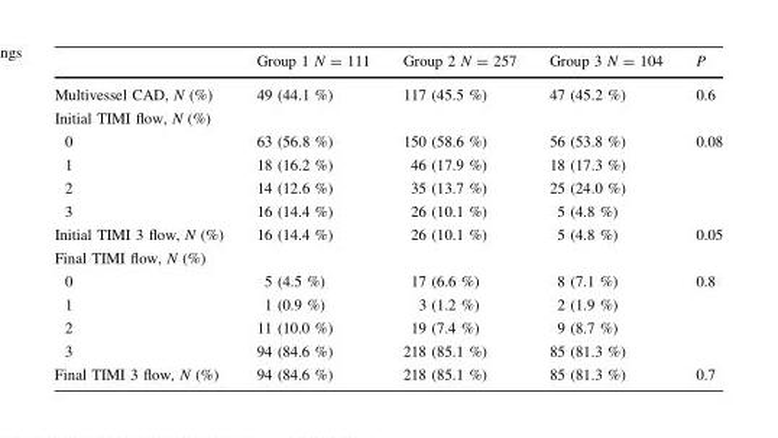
<table><thead><tr><td></td><td>Group 1 N = 111</td><td>Group 2 N = 257</td><td>Group 3 N = 104</td><td>P</td></tr></thead><tbody><tr><td>Multivessel CAD, N (%)</td><td>49 (44.1 %)</td><td>117 (45.5 %)</td><td>47 (45.2 %)</td><td>0.6</td></tr><tr><td colspan="5">Initial TIMI flow, N (%)</td></tr><tr><td>0</td><td>63 (56.8 %)</td><td>150 (58.6 %)</td><td>56 (53.8 %)</td><td rowspan="4">0.08</td></tr><tr><td>1</td><td>18 (16.2 %)</td><td>46 (17.9 %)</td><td>18 (17.3 %)</td></tr><tr><td>2</td><td>14 (12.6 %)</td><td>35 (13.7 %)</td><td>25 (24.0 %)</td></tr><tr><td>3</td><td>16 (14.4 %)</td><td>26 (10.1 %)</td><td>5 (4.8 %)</td></tr><tr><td>Initial TIMI 3 flow, N (%)</td><td>16 (14.4 %)</td><td>26 (10.1 %)</td><td>5 (4.8 %)</td><td>0.05</td></tr><tr><td colspan="5">Final TIMI flow, N (%)</td></tr><tr><td>0</td><td>5 (4.5 %)</td><td>17 (6.6 %)</td><td>8 (7.1 %)</td><td rowspan="4">0.8</td></tr><tr><td>1</td><td>1 (0.9 %)</td><td>3 (1.2 %)</td><td>2 (1.9 %)</td></tr><tr><td>2</td><td>11 (10.0 %)</td><td>19 (7.4 %)</td><td>9 (8.7 %)</td></tr><tr><td>3</td><td>94 (84.6 %)</td><td>218 (85.1 %)</td><td>85 (81.3 %)</td></tr><tr><td>Final TIMI 3 flow, N (%)</td><td>94 (84.6 %)</td><td>218 (85.1 %)</td><td>85 (81.3 %)</td><td>0.7</td></tr></tbody></table>